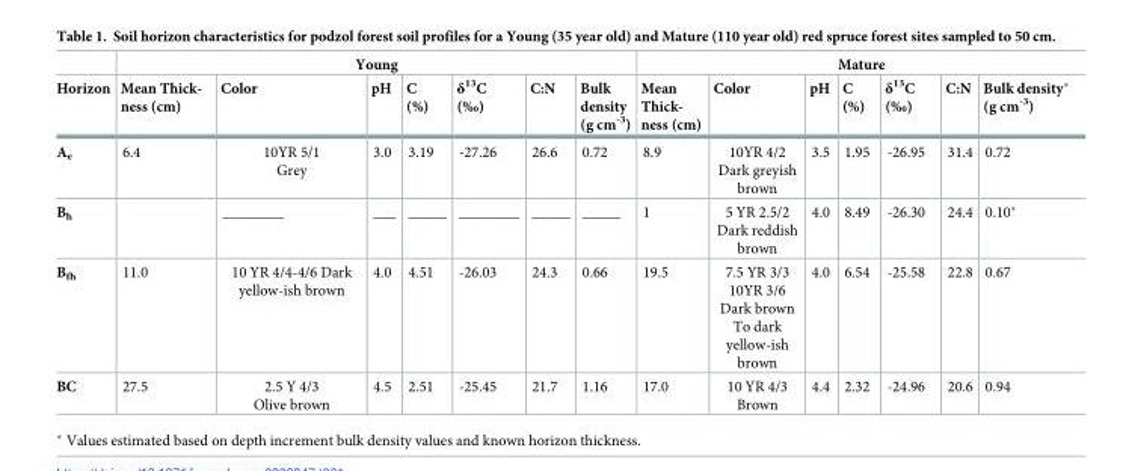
<table><thead><tr><td rowspan="2">Horizon</td><td colspan="7">Young</td><td colspan="7">Mature</td></tr><tr><td>Mean Thick- ness (cm)</td><td>Color</td><td>pH</td><td>C (%)</td><td>δ<sup>13</sup>C (‰)</td><td>C:N</td><td>Bulk density (g cm<sup>-3</sup>)</td><td>Mean Thick- ness (cm)</td><td>Color</td><td>pH</td><td>C (%)</td><td>δ<sup>13</sup>C (‰)</td><td>C:N</td><td>Bulk density* (g cm<sup>-3</sup>)</td></tr></thead><tbody><tr><td>A<sub>e</sub></td><td>6.4</td><td>10YR 5/1 Grey</td><td>3.0</td><td>3.19</td><td>-27.26</td><td>26.6</td><td>0.72</td><td>8.9</td><td>10YR 4/2 Dark greyish brown</td><td>3.5</td><td>1.95</td><td>-26.95</td><td>31.4</td><td>0.72</td></tr><tr><td>B<sub>h</sub></td><td></td><td>________</td><td>___</td><td>_____</td><td>________</td><td>_____</td><td>_____</td><td>1</td><td>5 YR 2.5/2 Dark reddish brown</td><td>4.0</td><td>8.49</td><td>-26.30</td><td>24.4</td><td>0.10*</td></tr><tr><td>B<sub>fh</sub></td><td>11.0</td><td>10 YR 4/4-4/6 Dark yellow-ish brown</td><td>4.0</td><td>4.51</td><td>-26.03</td><td>24.3</td><td>0.66</td><td>19.5</td><td>7.5 YR 3/3 10YR 3/6 Dark brown To dark yellow-ish brown</td><td>4.0</td><td>6.54</td><td>-25.58</td><td>22.8</td><td>0.67</td></tr><tr><td>BC</td><td>27.5</td><td>2.5 Y 4/3 Olive brown</td><td>4.5</td><td>2.51</td><td>-25.45</td><td>21.7</td><td>1.16</td><td>17.0</td><td>10 YR 4/3 Brown</td><td>4.4</td><td>2.32</td><td>-24.96</td><td>20.6</td><td>0.94</td></tr></tbody></table>